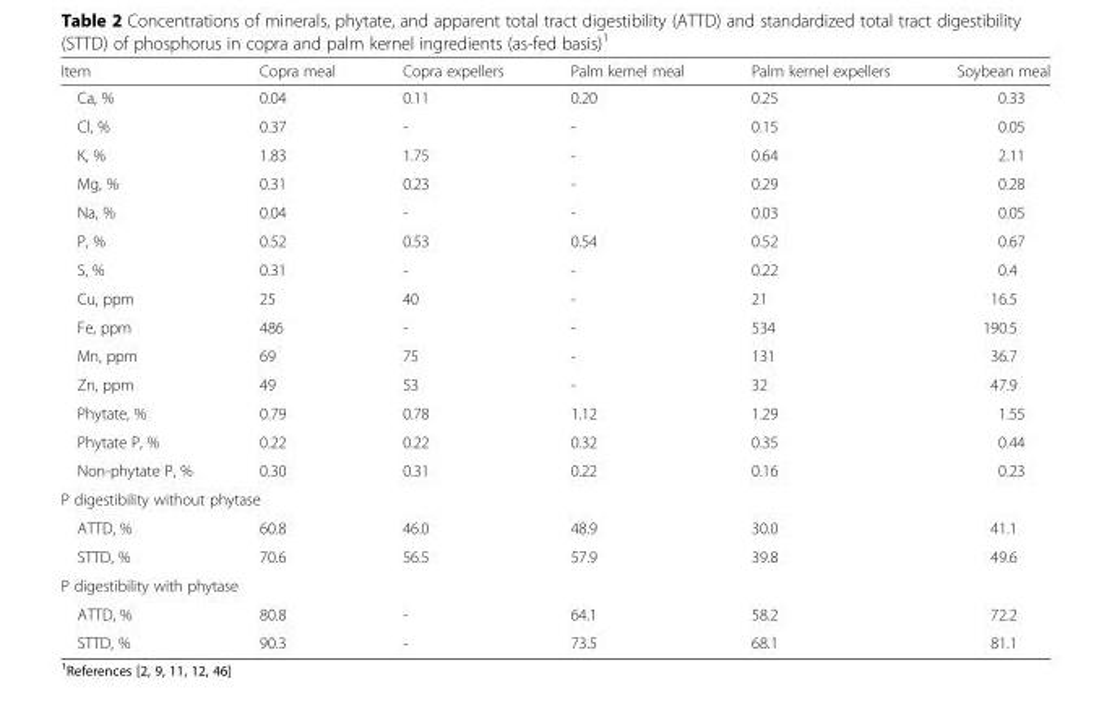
<table><thead><tr><td>Item</td><td>Copra meal</td><td>Copra expellers</td><td>Palm kernel meal</td><td>Palm kernel expellers</td><td>Soybean meal</td></tr></thead><tbody><tr><td>Ca, %</td><td>0.04</td><td>0.11</td><td>0.20</td><td>0.25</td><td>0.33</td></tr><tr><td>Cl, %</td><td>0.37</td><td>-</td><td>-</td><td>0.15</td><td>0.05</td></tr><tr><td>K, %</td><td>1.83</td><td>1.75</td><td>-</td><td>0.64</td><td>2.11</td></tr><tr><td>Mg, %</td><td>0.31</td><td>0.23</td><td>-</td><td>0.29</td><td>0.28</td></tr><tr><td>Na, %</td><td>0.04</td><td>-</td><td>-</td><td>0.03</td><td>0.05</td></tr><tr><td>P, %</td><td>0.52</td><td>0.53</td><td>0.54</td><td>0.52</td><td>0.67</td></tr><tr><td>S, %</td><td>0.31</td><td>-</td><td>-</td><td>0.22</td><td>0.4</td></tr><tr><td>Cu, ppm</td><td>25</td><td>40</td><td>-</td><td>21</td><td>16.5</td></tr><tr><td>Fe, ppm</td><td>486</td><td>-</td><td>-</td><td>534</td><td>190.5</td></tr><tr><td>Mn, ppm</td><td>69</td><td>75</td><td>-</td><td>131</td><td>36.7</td></tr><tr><td>Zn, ppm</td><td>49</td><td>53</td><td>-</td><td>32</td><td>47.9</td></tr><tr><td>Phytate, %</td><td>0.79</td><td>0.78</td><td>1.12</td><td>1.29</td><td>1.55</td></tr><tr><td>Phytate P, %</td><td>0.22</td><td>0.22</td><td>0.32</td><td>0.35</td><td>0.44</td></tr><tr><td>Non-phytate P, %</td><td>0.30</td><td>0.31</td><td>0.22</td><td>0.16</td><td>0.23</td></tr><tr><td colspan="6">P digestibility without phytase</td></tr><tr><td>ATTD, %</td><td>60.8</td><td>46.0</td><td>48.9</td><td>30.0</td><td>41.1</td></tr><tr><td>STTD, %</td><td>70.6</td><td>56.5</td><td>57.9</td><td>39.8</td><td>49.6</td></tr><tr><td colspan="6">P digestibility with phytase</td></tr><tr><td>ATTD, %</td><td>80.8</td><td>-</td><td>64.1</td><td>58.2</td><td>72.2</td></tr><tr><td>STTD, %</td><td>90.3</td><td>-</td><td>73.5</td><td>68.1</td><td>81.1</td></tr></tbody></table>